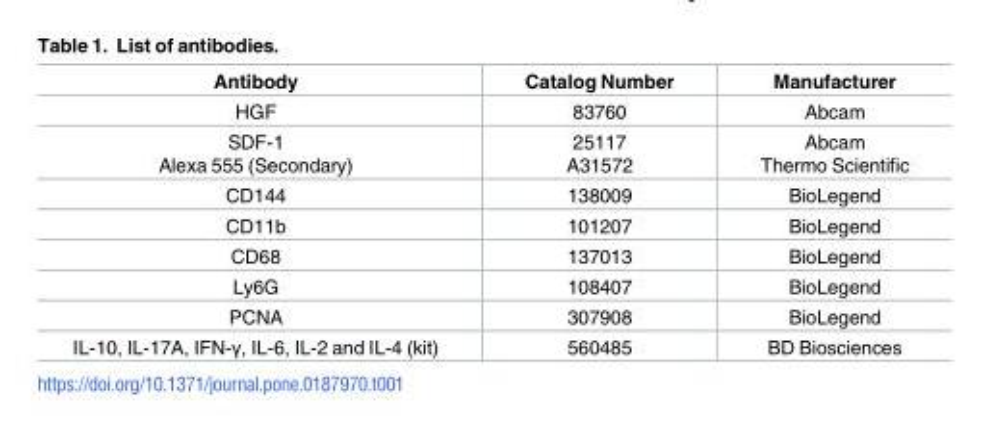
<table><thead><tr><td>Antibody</td><td>Catalog Number</td><td>Manufacturer</td></tr></thead><tbody><tr><td>HGF</td><td>83760</td><td>Abcam</td></tr><tr><td>SDF-1 Alexa 555 (Secondary)</td><td>25117 A31572</td><td>Abcam Thermo Scientific</td></tr><tr><td>CD144</td><td>138009</td><td>BioLegend</td></tr><tr><td>CD11b</td><td>101207</td><td>BioLegend</td></tr><tr><td>CD68</td><td>137013</td><td>BioLegend</td></tr><tr><td>Ly6G</td><td>108407</td><td>BioLegend</td></tr><tr><td>PCNA</td><td>307908</td><td>BioLegend</td></tr><tr><td>IL-10, IL-17A, IFN-γ, IL-6, IL-2 and IL-4 (kit)</td><td>560485</td><td>BD Biosciences</td></tr></tbody></table>